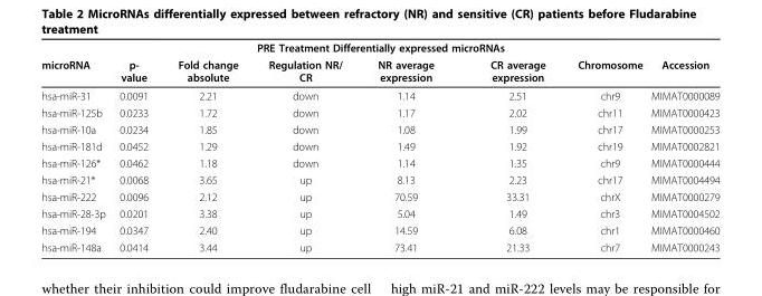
<table><thead><tr><td colspan="8">PRE Treatment Differentially expressed microRNAs</td></tr><tr><td>microRNA</td><td>p- value</td><td>Fold change absolute</td><td>Regulation NR/ CR</td><td>NR average expression</td><td>CR average expression</td><td>Chromosome</td><td>Accession</td></tr></thead><tbody><tr><td>hsa-miR-31</td><td>0.0091</td><td>2.21</td><td>down</td><td>1.14</td><td>2.51</td><td>chr9</td><td>MIMAT0000089</td></tr><tr><td>hsa-miR-125b</td><td>0.0233</td><td>1.72</td><td>down</td><td>1.17</td><td>2.02</td><td>chr11</td><td>MIMAT0000423</td></tr><tr><td>hsa-miR-10a</td><td>0.0234</td><td>1.85</td><td>down</td><td>1.08</td><td>1.99</td><td>chr17</td><td>MIMAT0000253</td></tr><tr><td>hsa-miR-181d</td><td>0.0452</td><td>1.29</td><td>down</td><td>1.49</td><td>1.92</td><td>chr19</td><td>MIMAT0002821</td></tr><tr><td>hsa-miR-126*</td><td>0.0462</td><td>1.18</td><td>down</td><td>1.14</td><td>1.35</td><td>chr9</td><td>MIMAT0000444</td></tr><tr><td>hsa-miR-21*</td><td>0.0068</td><td>3.65</td><td>up</td><td>8.13</td><td>2.23</td><td>chr17</td><td>MIMAT0004494</td></tr><tr><td>hsa-miR-222</td><td>0.0096</td><td>2.12</td><td>up</td><td>70.59</td><td>33.31</td><td>chrX</td><td>MIMAT0000279</td></tr><tr><td>hsa-miR-28-3p</td><td>0.0201</td><td>3.38</td><td>up</td><td>5.04</td><td>1.49</td><td>chr3</td><td>MIMAT0004502</td></tr><tr><td>hsa-miR-194</td><td>0.0347</td><td>2.40</td><td>up</td><td>14.59</td><td>6.08</td><td>chr1</td><td>MIMAT0000460</td></tr><tr><td>hsa-miR-148a</td><td>0.0414</td><td>3.44</td><td>up</td><td>73.41</td><td>21.33</td><td>chr7</td><td>MIMAT0000243</td></tr></tbody></table>